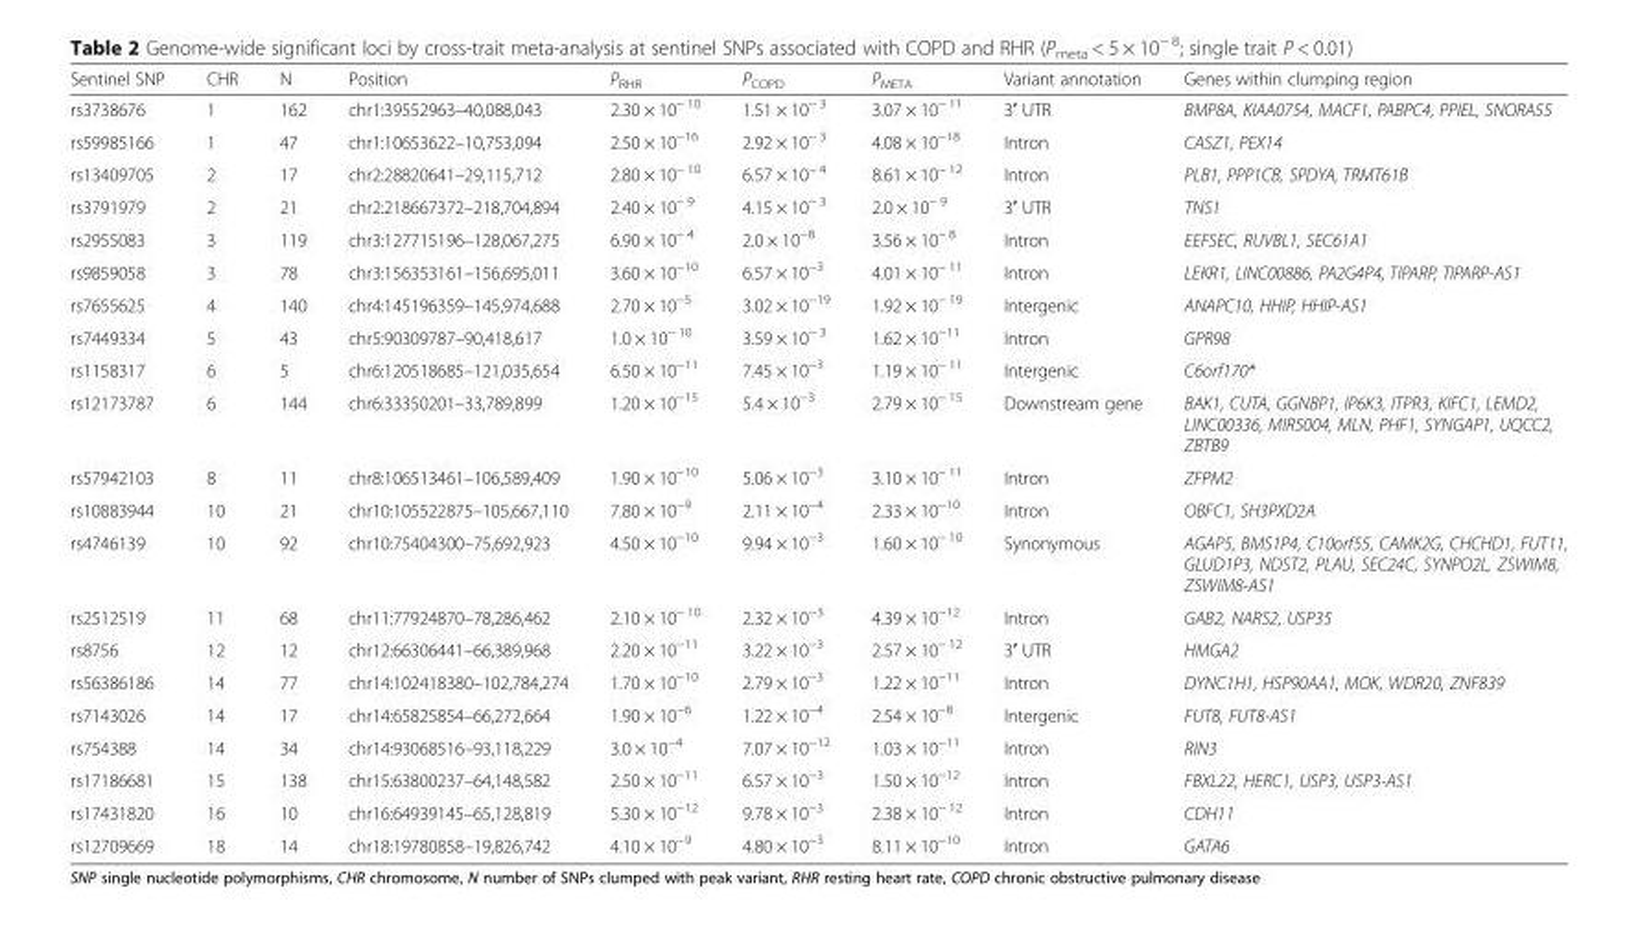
<table><thead><tr><td>Sentinel SNP</td><td>CHR</td><td>N</td><td>Position</td><td>P<sub>RHR</sub></td><td>P<sub>COPD</sub></td><td>P<sub>META</sub></td><td>Variant annotation</td><td>Genes within clumping region</td></tr></thead><tbody><tr><td>rs3738676</td><td>1</td><td>162</td><td>chr1:39552963–40,088,043</td><td>2.30 × 10<sup>− 10</sup></td><td>1.51 × 10<sup>− 3</sup></td><td>3.07 × 10<sup>− 11</sup></td><td>3′ UTR</td><td>BMP8A, KIAA0754, MACF1, PABPC4, PPIEL, SNORA55</td></tr><tr><td>rs59985166</td><td>1</td><td>47</td><td>chr1:10653622–10,753,094</td><td>2.50 × 10<sup>−16</sup></td><td>2.92 × 10<sup>− 3</sup></td><td>4.08 × 10<sup>−18</sup></td><td>Intron</td><td>CASZ1, PEX14</td></tr><tr><td>rs13409705</td><td>2</td><td>17</td><td>chr2:28820641–29,115,712</td><td>2.80 × 10<sup>− 10</sup></td><td>6.57 × 10<sup>− 4</sup></td><td>8.61 × 10<sup>− 12</sup></td><td>Intron</td><td>PLB1, PPP1CB, SPDYA, TRMT61B</td></tr><tr><td>rs3791979</td><td>2</td><td>21</td><td>chr2:218667372–218,704,894</td><td>2.40 × 10<sup>− 9</sup></td><td>4.15 × 10<sup>− 3</sup></td><td>2.0 × 10<sup>− 9</sup></td><td>3′ UTR</td><td>TNS1</td></tr><tr><td>rs2955083</td><td>3</td><td>119</td><td>chr3:127715196–128,067,275</td><td>6.90 × 10<sup>− 4</sup></td><td>2.0 × 10<sup>−8</sup></td><td>3.56 × 10<sup>− 8</sup></td><td>Intron</td><td>EEFSEC, RUVBL1, SEC61A1</td></tr><tr><td>rs9859058</td><td>3</td><td>78</td><td>chr3:156353161–156,695,011</td><td>3.60 × 10<sup>−10</sup></td><td>6.57 × 10<sup>−3</sup></td><td>4.01 × 10<sup>− 11</sup></td><td>Intron</td><td>LEKR1, LINC00886, PA2G4P4, TIPARP, TIPARP-AS1</td></tr><tr><td>rs7655625</td><td>4</td><td>140</td><td>chr4:145196359–145,974,688</td><td>2.70 × 10<sup>−5</sup></td><td>3.02 × 10<sup>−19</sup></td><td>1.92 × 10<sup>− 19</sup></td><td>Intergenic</td><td>ANAPC10, HHIP, HHIP-AS1</td></tr><tr><td>rs7449334</td><td>5</td><td>43</td><td>chr5:90309787–90,418,617</td><td>1.0 × 10<sup>− 10</sup></td><td>3.59 × 10<sup>− 3</sup></td><td>1.62 × 10<sup>−11</sup></td><td>Intron</td><td>GPR98</td></tr><tr><td>rs1158317</td><td>6</td><td>5</td><td>chr6:120518685–121,035,654</td><td>6.50 × 10<sup>−11</sup></td><td>7.45 × 10<sup>−3</sup></td><td>1.19 × 10<sup>− 11</sup></td><td>Intergenic</td><td>C6orf170*</td></tr><tr><td>rs12173787</td><td>6</td><td>144</td><td>chr6:33350201–33,789,899</td><td>1.20 × 10<sup>−15</sup></td><td>5.4 × 10<sup>−3</sup></td><td>2.79 × 10<sup>− 15</sup></td><td>Downstream gene</td><td>BAK1, CUTA, GGNBP1, IP6K3, ITPR3, KIFC1, LEMD2, LINC00336, MIR5004, MLN, PHF1, SYNGAP1, UQCC2, ZBTB9</td></tr><tr><td>rs57942103</td><td>8</td><td>11</td><td>chr8:106513461–106,589,409</td><td>1.90 × 10<sup>−10</sup></td><td>5.06 × 10<sup>−3</sup></td><td>3.10 × 10<sup>− 11</sup></td><td>Intron</td><td>ZFPM2</td></tr><tr><td>rs10883944</td><td>10</td><td>21</td><td>chr10:105522875–105,667,110</td><td>7.80 × 10<sup>−9</sup></td><td>2.11 × 10<sup>−4</sup></td><td>2.33 × 10<sup>−10</sup></td><td>Intron</td><td>OBFC1, SH3PXD2A</td></tr><tr><td>rs4746139</td><td>10</td><td>92</td><td>chr10:75404300–75,692,923</td><td>4.50 × 10<sup>−10</sup></td><td>9.94 × 10<sup>−3</sup></td><td>1.60 × 10<sup>− 10</sup></td><td>Synonymous</td><td>AGAP5, BMS1P4, C10orf55, CAMK2G, CHCHD1, FUT11, GLUD1P3, NDST2, PLAU, SEC24C, SYNPO2L, ZSWIM8, ZSWIM8-AS1</td></tr><tr><td>rs2512519</td><td>11</td><td>68</td><td>chr11:77924870–78,286,462</td><td>2.10 × 10<sup>− 10</sup></td><td>2.32 × 10<sup>−3</sup></td><td>4.39 × 10<sup>−12</sup></td><td>Intron</td><td>GAB2, NARS2, USP35</td></tr><tr><td>rs8756</td><td>12</td><td>12</td><td>chr12:66306441–66,389,968</td><td>2.20 × 10<sup>−11</sup></td><td>3.22 × 10<sup>−3</sup></td><td>2.57 × 10<sup>− 12</sup></td><td>3′ UTR</td><td>HMGA2</td></tr><tr><td>rs56386186</td><td>14</td><td>77</td><td>chr14:102418380–102,784,274</td><td>1.70 × 10<sup>−10</sup></td><td>2.79 × 10<sup>−3</sup></td><td>1.22 × 10<sup>−11</sup></td><td>Intron</td><td>DYNC1H1, HSP90AA1, MOK, WDR20, ZNF839</td></tr><tr><td>rs7143026</td><td>14</td><td>17</td><td>chr14:65825854–66,272,664</td><td>1.90 × 10<sup>−6</sup></td><td>1.22 × 10<sup>−4</sup></td><td>2.54 × 10<sup>−8</sup></td><td>Intergenic</td><td>FUT8, FUT8-AS1</td></tr><tr><td>rs754388</td><td>14</td><td>34</td><td>chr14:93068516–93,118,229</td><td>3.0 × 10<sup>−4</sup></td><td>7.07 × 10<sup>−12</sup></td><td>1.03 × 10<sup>−11</sup></td><td>Intron</td><td>RIN3</td></tr><tr><td>rs17186681</td><td>15</td><td>138</td><td>chr15:63800237–64,148,582</td><td>2.50 × 10<sup>−11</sup></td><td>6.57 × 10<sup>−3</sup></td><td>1.50 × 10<sup>−12</sup></td><td>Intron</td><td>FBXL22, HERC1, USP3, USP3-AS1</td></tr><tr><td>rs17431820</td><td>16</td><td>10</td><td>chr16:64939145–65,128,819</td><td>5.30 × 10<sup>−12</sup></td><td>9.78 × 10<sup>−3</sup></td><td>2.38 × 10<sup>− 12</sup></td><td>Intron</td><td>CDH11</td></tr><tr><td>rs12709669</td><td>18</td><td>14</td><td>chr18:19780858–19,826,742</td><td>4.10 × 10<sup>−9</sup></td><td>4.80 × 10<sup>−3</sup></td><td>8.11 × 10<sup>−10</sup></td><td>Intron</td><td>GATA6</td></tr></tbody></table>